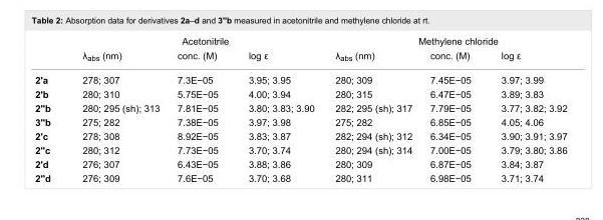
<table><thead><tr><td rowspan="2"></td><td colspan="3">Acetonitrile</td><td colspan="3">Methylene chloride</td></tr><tr><td>λ<sub>abs</sub> (nm)</td><td>conc. (M)</td><td>log ε</td><td>λ<sub>abs</sub> (nm)</td><td>conc. (M)</td><td>log ε</td></tr></thead><tbody><tr><td>2&#x27;a</td><td>278; 307</td><td>7.3E−05</td><td>3.95; 3.95</td><td>280; 309</td><td>7.45E−05</td><td>3.97; 3.99</td></tr><tr><td>2&#x27;b</td><td>280; 310</td><td>5.75E−05</td><td>4.00; 3.94</td><td>280; 315</td><td>6.47E−05</td><td>3.89; 3.83</td></tr><tr><td>2&#x27;&#x27;b</td><td>280; 295 (sh); 313</td><td>7.81E−05</td><td>3.80; 3.83; 3.90</td><td>282; 295 (sh); 317</td><td>7.79E−05</td><td>3.77; 3.82; 3.92</td></tr><tr><td>3&#x27;&#x27;b</td><td>275; 282</td><td>7.38E−05</td><td>3.97; 3.98</td><td>275; 282</td><td>6.85E−05</td><td>4.05; 4.06</td></tr><tr><td>2&#x27;c</td><td>278; 308</td><td>8.92E−05</td><td>3.83; 3.87</td><td>282; 294 (sh); 312</td><td>6.34E−05</td><td>3.90; 3.91; 3.97</td></tr><tr><td>2&#x27;&#x27;c</td><td>280; 312</td><td>7.73E−05</td><td>3.70; 3.74</td><td>280; 294 (sh); 314</td><td>7.00E−05</td><td>3.79; 3.80; 3.86</td></tr><tr><td>2&#x27;d</td><td>276; 307</td><td>6.43E−05</td><td>3.88; 3.86</td><td>280; 309</td><td>6.87E−05</td><td>3.84; 3.87</td></tr><tr><td>2&#x27;&#x27;d</td><td>276; 309</td><td>7.6E−05</td><td>3.70; 3.68</td><td>280; 311</td><td>6.98E−05</td><td>3.71; 3.74</td></tr></tbody></table>